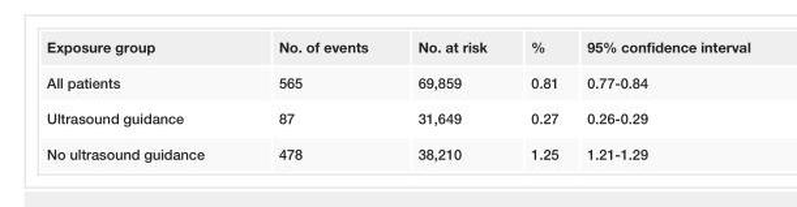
<table><tbody><tr><td>Exposure group</td><td>No. of events</td><td>No. at risk</td><td>%</td><td>95% confidence interval</td></tr><tr><td>All patients</td><td>565</td><td>69,859</td><td>0.81</td><td>0.77-0.84</td></tr><tr><td>Ultrasound guidance</td><td>87</td><td>31,649</td><td>0.27</td><td>0.26-0.29</td></tr><tr><td>No ultrasound guidance</td><td>478</td><td>38,210</td><td>1.25</td><td>1.21-1.29</td></tr></tbody></table>